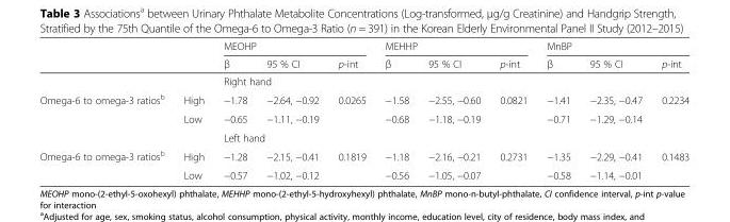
<table><thead><tr><td rowspan="2"></td><td rowspan="2"></td><td colspan="3">MEOHP</td><td colspan="3">MEHHP</td><td colspan="3">MnBP</td></tr><tr><td>β</td><td>95 % CI</td><td>p-int</td><td>β</td><td>95 % CI</td><td>p-int</td><td>β</td><td>95 % CI</td><td>p-int</td></tr></thead><tbody><tr><td colspan="2"></td><td colspan="9">Right hand</td></tr><tr><td rowspan="2">Omega-6 to omega-3 ratios<sup>b</sup></td><td>High</td><td>−1.78</td><td>−2.64, −0.92</td><td>0.0265</td><td>−1.58</td><td>−2.55, −0.60</td><td>0.0821</td><td>−1.41</td><td>−2.35, −0.47</td><td>0.2234</td></tr><tr><td>Low</td><td>−0.65</td><td>−1.11, −0.19</td><td></td><td>−0.68</td><td>−1.18, −0.19</td><td></td><td>−0.71</td><td>−1.29, −0.14</td><td></td></tr><tr><td colspan="2"></td><td colspan="9">Left hand</td></tr><tr><td rowspan="2">Omega-6 to omega-3 ratios<sup>b</sup></td><td>High</td><td>−1.28</td><td>−2.15, −0.41</td><td>0.1819</td><td>−1.18</td><td>−2.16, −0.21</td><td>0.2731</td><td>−1.35</td><td>−2.29, −0.41</td><td>0.1483</td></tr><tr><td>Low</td><td>−0.57</td><td>−1.02, −0.12</td><td></td><td>−0.56</td><td>−1.05, −0.07</td><td></td><td>−0.58</td><td>−1.14, −0.01</td><td></td></tr></tbody></table>